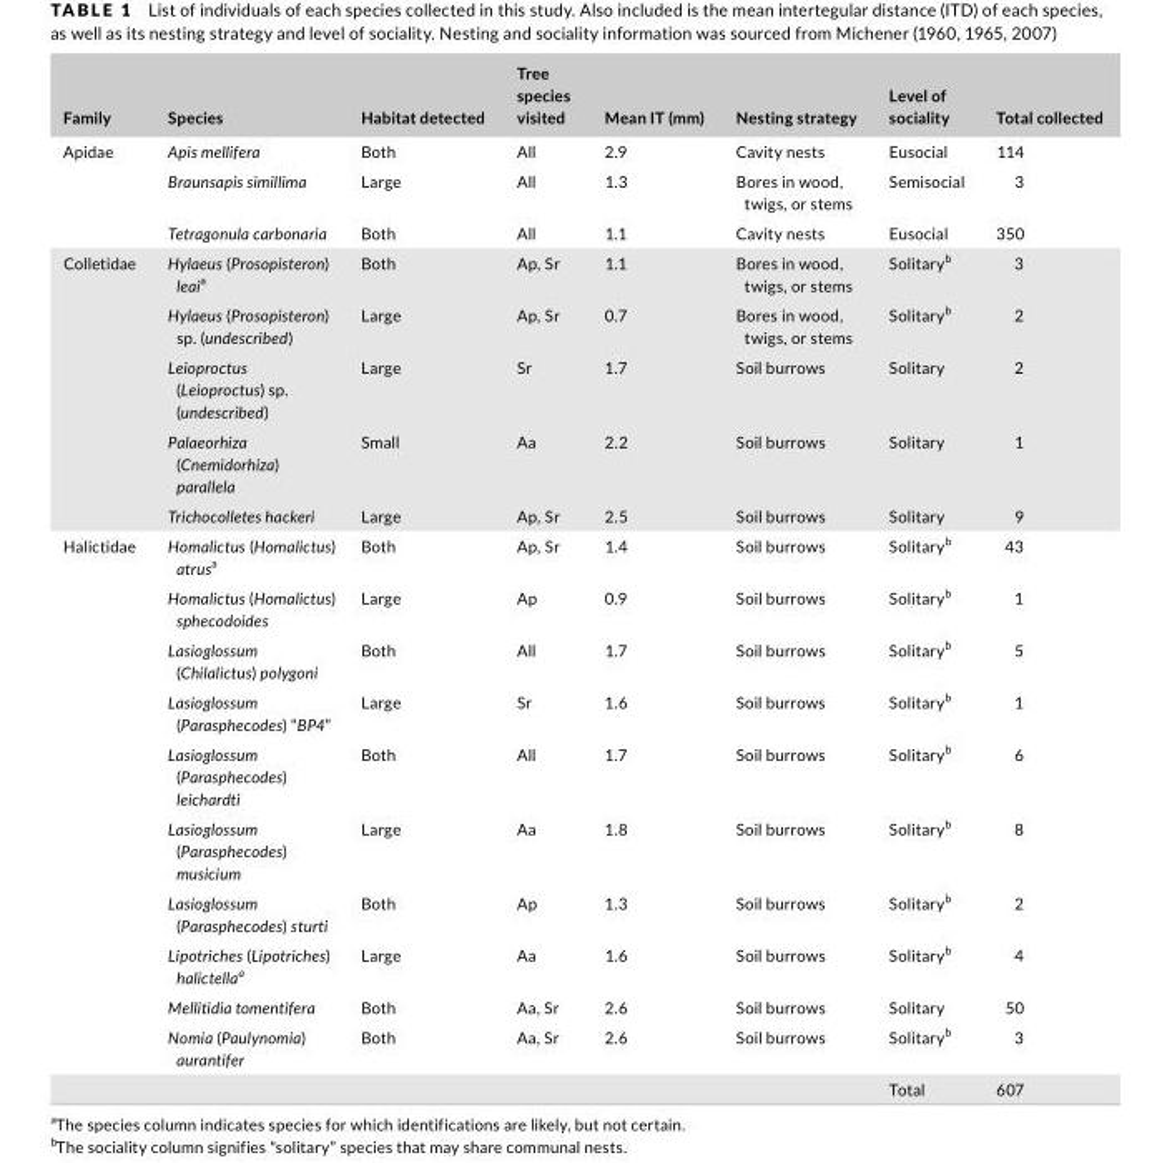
<table><thead><tr><td>Family</td><td>Species</td><td>Habitat detected</td><td>Tree species visited</td><td>Mean IT (mm)</td><td>Nesting strategy</td><td>Level of sociality</td><td>Total collected</td></tr></thead><tbody><tr><td rowspan="3">Apidae</td><td>Apis mellifera</td><td>Both</td><td>All</td><td>2.9</td><td>Cavity nests</td><td>Eusocial</td><td>114</td></tr><tr><td>Braunsapis simillima</td><td>Large</td><td>All</td><td>1.3</td><td>Bores in wood, twigs, or stems</td><td>Semisocial</td><td>3</td></tr><tr><td>Tetragonula carbonaria</td><td>Both</td><td>All</td><td>1.1</td><td>Cavity nests</td><td>Eusocial</td><td>350</td></tr><tr><td rowspan="5">Colletidae</td><td>Hylaeus (Prosopisteron) leaia</td><td>Both</td><td>Ap, Sr</td><td>1.1</td><td>Bores in wood, twigs, or stems</td><td>Solitary<sup>b</sup></td><td>3</td></tr><tr><td>Hylaeus (Prosopisteron) sp. (undescribed)</td><td>Large</td><td>Ap, Sr</td><td>0.7</td><td>Bores in wood, twigs, or stems</td><td>Solitary<sup>b</sup></td><td>2</td></tr><tr><td>Leioproctus (Leioproctus) sp. (undescribed)</td><td>Large</td><td>Sr</td><td>1.7</td><td>Soil burrows</td><td>Solitary</td><td>2</td></tr><tr><td>Palaeorhiza (Cnemidorhiza) parallela</td><td>Small</td><td>Aa</td><td>2.2</td><td>Soil burrows</td><td>Solitary</td><td>1</td></tr><tr><td>Trichocolletes hackeri</td><td>Large</td><td>Ap, Sr</td><td>2.5</td><td>Soil burrows</td><td>Solitary</td><td>9</td></tr><tr><td rowspan="11">Halictidae</td><td>Homalictus (Homalictus) atrusa</td><td>Both</td><td>Ap, Sr</td><td>1.4</td><td>Soil burrows</td><td>Solitary<sup>b</sup></td><td>43</td></tr><tr><td>Homalictus (Homalictus) sphecodoides</td><td>Large</td><td>Ap</td><td>0.9</td><td>Soil burrows</td><td>Solitary<sup>b</sup></td><td>1</td></tr><tr><td>Lasioglossum (Chilalictus) polygoni</td><td>Both</td><td>All</td><td>1.7</td><td>Soil burrows</td><td>Solitary<sup>b</sup></td><td>5</td></tr><tr><td>Lasioglossum (Parasphecodes) “BP4”</td><td>Large</td><td>Sr</td><td>1.6</td><td>Soil burrows</td><td>Solitary<sup>b</sup></td><td>1</td></tr><tr><td>Lasioglossum (Parasphecodes) leichardti</td><td>Both</td><td>All</td><td>1.7</td><td>Soil burrows</td><td>Solitary<sup>b</sup></td><td>6</td></tr><tr><td>Lasioglossum (Parasphecodes) musicium</td><td>Large</td><td>Aa</td><td>1.8</td><td>Soil burrows</td><td>Solitary<sup>b</sup></td><td>8</td></tr><tr><td>Lasioglossum (Parasphecodes) sturti</td><td>Both</td><td>Ap</td><td>1.3</td><td>Soil burrows</td><td>Solitary<sup>b</sup></td><td>2</td></tr><tr><td>Lipotriches (Lipotriches) halictellaa</td><td>Large</td><td>Aa</td><td>1.6</td><td>Soil burrows</td><td>Solitary<sup>b</sup></td><td>4</td></tr><tr><td>Mellitidia tomentifera</td><td>Both</td><td>Aa, Sr</td><td>2.6</td><td>Soil burrows</td><td>Solitary</td><td>50</td></tr><tr><td>Nomia (Paulynomia) aurantifer</td><td>Both</td><td>Aa, Sr</td><td>2.6</td><td>Soil burrows</td><td>Solitary<sup>b</sup></td><td>3</td></tr><tr><td></td><td></td><td></td><td></td><td></td><td>Total</td><td>607</td></tr></tbody></table>